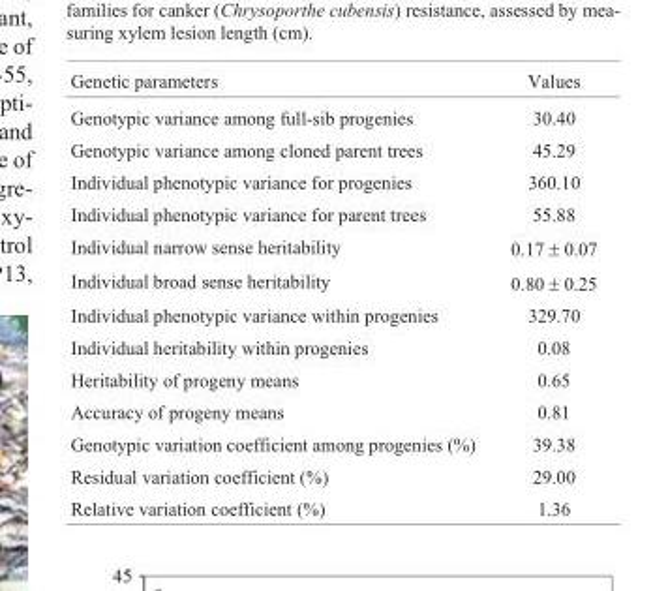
<table><thead><tr><td>Genetic parameters</td><td>Values</td></tr></thead><tbody><tr><td>Genotypic variance among full-sib progenies</td><td>30.40</td></tr><tr><td>Genotypic variance among cloned parent trees</td><td>45.29</td></tr><tr><td>Individual phenotypic variance for progenies</td><td>360.10</td></tr><tr><td>Individual phenotypic variance for parent trees</td><td>55.88</td></tr><tr><td>Individual narrow sense heritability</td><td>0.17 ± 0.07</td></tr><tr><td>Individual broad sense heritability</td><td>0.80 ± 0.25</td></tr><tr><td>Individual phenotypic variance within progenies</td><td>329.70</td></tr><tr><td>Individual heritability within progenies</td><td>0.08</td></tr><tr><td>Heritability of progeny means</td><td>0.65</td></tr><tr><td>Accuracy of progeny means</td><td>0.81</td></tr><tr><td>Genotypic variation coefficient among progenies (%)</td><td>39.38</td></tr><tr><td>Residual variation coefficient (%)</td><td>29.00</td></tr><tr><td>Relative variation coefficient (%)</td><td>1.36</td></tr></tbody></table>